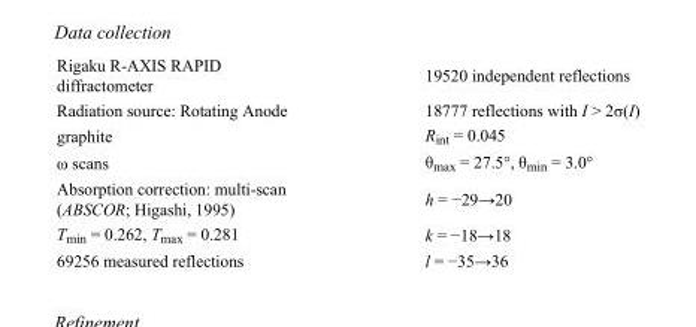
<table><tbody><tr><td>Rigaku R-AXIS RAPID diffractometer</td><td>19520 independent reflections</td></tr><tr><td>Radiation source: Rotating Anode</td><td>18777 reflections with I &gt; 2σ(I)</td></tr><tr><td>graphite</td><td>R<sub>int</sub> = 0.045</td></tr><tr><td>ω scans</td><td>θ<sub>max</sub> = 27.5°, θ<sub>min</sub> = 3.0°</td></tr><tr><td>Absorption correction: multi-scan (ABSCOR; Higashi, 1995)</td><td>h = −29→20</td></tr><tr><td>T<sub>min</sub> = 0.262, T<sub>max</sub> = 0.281</td><td>k = −18→18</td></tr><tr><td>69256 measured reflections</td><td>l = −35→36</td></tr></tbody></table>